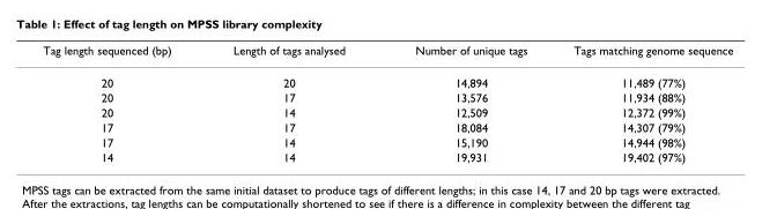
<table><thead><tr><td>Tag length sequenced (bp)</td><td>Length of tags analysed</td><td>Number of unique tags</td><td>Tags matching genome sequence</td></tr></thead><tbody><tr><td>20</td><td>20</td><td>14,894</td><td>11,489 (77%)</td></tr><tr><td>20</td><td>17</td><td>13,576</td><td>11,934 (88%)</td></tr><tr><td>20</td><td>14</td><td>12,509</td><td>12,372 (99%)</td></tr><tr><td>17</td><td>17</td><td>18,084</td><td>14,307 (79%)</td></tr><tr><td>17</td><td>14</td><td>15,190</td><td>14,944 (98%)</td></tr><tr><td>14</td><td>14</td><td>19,931</td><td>19,402 (97%)</td></tr></tbody></table>